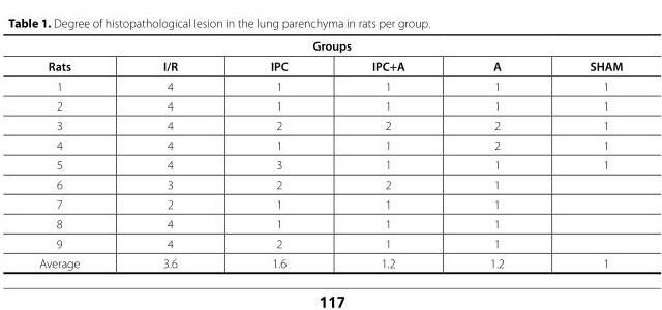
<table><thead><tr><td colspan="6">Groups</td></tr><tr><td>Rats</td><td>I/R</td><td>IPC</td><td>IPC+A</td><td>A</td><td>SHAM</td></tr></thead><tbody><tr><td>1</td><td>4</td><td>1</td><td>1</td><td>1</td><td>1</td></tr><tr><td>2</td><td>4</td><td>1</td><td>1</td><td>1</td><td>1</td></tr><tr><td>3</td><td>4</td><td>2</td><td>2</td><td>2</td><td>1</td></tr><tr><td>4</td><td>4</td><td>1</td><td>1</td><td>2</td><td>1</td></tr><tr><td>5</td><td>4</td><td>3</td><td>1</td><td>1</td><td>1</td></tr><tr><td>6</td><td>3</td><td>2</td><td>2</td><td>1</td><td></td></tr><tr><td>7</td><td>2</td><td>1</td><td>1</td><td>1</td><td></td></tr><tr><td>8</td><td>4</td><td>1</td><td>1</td><td>1</td><td></td></tr><tr><td>9</td><td>4</td><td>2</td><td>1</td><td>1</td><td></td></tr><tr><td>Average</td><td>3.6</td><td>1.6</td><td>1.2</td><td>1.2</td><td>1</td></tr></tbody></table>